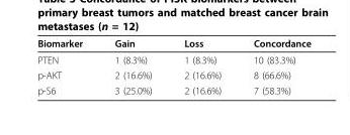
<table><thead><tr><td>Biomarker</td><td>Gain</td><td>Loss</td><td>Concordance</td></tr></thead><tbody><tr><td>PTEN</td><td>1 (8.3%)</td><td>1 (8.3%)</td><td>10 (83.3%)</td></tr><tr><td>p-AKT</td><td>2 (16.6%)</td><td>2 (16.6%)</td><td>8 (66.6%)</td></tr><tr><td>p-S6</td><td>3 (25.0%)</td><td>2 (16.6%)</td><td>7 (58.3%)</td></tr></tbody></table>